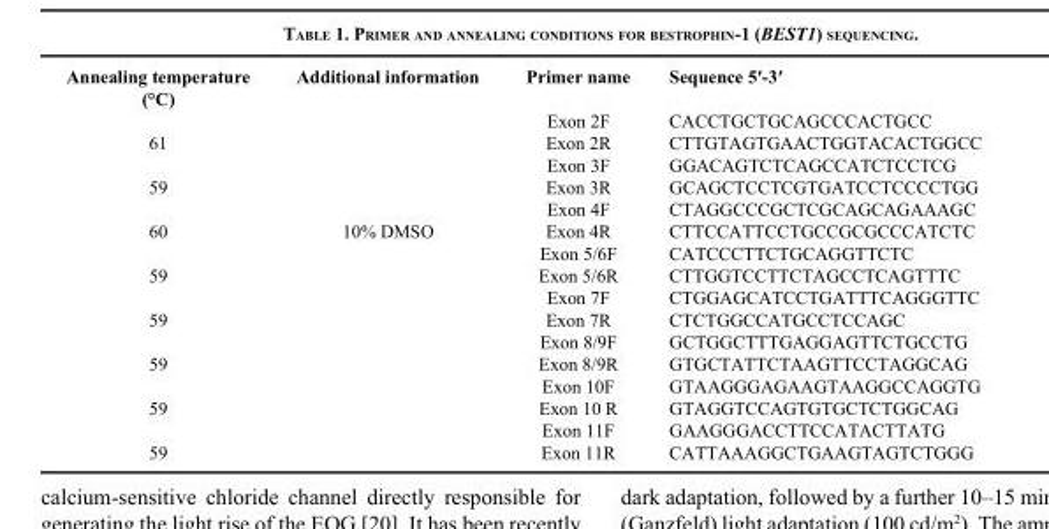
<table><thead><tr><td>Annealing temperature (°C)</td><td>Additional information</td><td>Primer name</td><td>Sequence 5′-3′</td></tr></thead><tbody><tr><td></td><td></td><td>Exon 2F</td><td>CACCTGCTGCAGCCCACTGCC</td></tr><tr><td rowspan="2">61</td><td></td><td>Exon 2R</td><td>CTTGTAGTGAACTGGTACACTGGCC</td></tr><tr><td></td><td>Exon 3F</td><td>GGACAGTCTCAGCCATCTCCTCG</td></tr><tr><td rowspan="2">59</td><td></td><td>Exon 3R</td><td>GCAGCTCCTCGTGATCCTCCCCTGG</td></tr><tr><td></td><td>Exon 4F</td><td>CTAGGCCCGCTCGCAGCAGAAAGC</td></tr><tr><td rowspan="2">60</td><td>10% DMSO</td><td>Exon 4R</td><td>CTTCCATTCCTGCCGCGCCCATCTC</td></tr><tr><td></td><td>Exon 5/6F</td><td>CATCCCTTCTGCAGGTTCTC</td></tr><tr><td rowspan="2">59</td><td></td><td>Exon 5/6R</td><td>CTTGGTCCTTCTAGCCTCAGTTTC</td></tr><tr><td></td><td>Exon 7F</td><td>CTGGAGCATCCTGATTTCAGGGTTC</td></tr><tr><td rowspan="2">59</td><td></td><td>Exon 7R</td><td>CTCTGGCCATGCCTCCAGC</td></tr><tr><td></td><td>Exon 8/9F</td><td>GCTGGCTTTGAGGAGTTCTGCCTG</td></tr><tr><td rowspan="2">59</td><td></td><td>Exon 8/9R</td><td>GTGCTATTCTAAGTTCCTAGGCAG</td></tr><tr><td></td><td>Exon 10F</td><td>GTAAGGGAGAAGTAAGGCCAGGTG</td></tr><tr><td rowspan="2">59</td><td></td><td>Exon 10 R</td><td>GTAGGTCCAGTGTGCTCTGGCAG</td></tr><tr><td></td><td>Exon 11F</td><td>GAAGGGACCTTCCATACTTATG</td></tr><tr><td>59</td><td></td><td>Exon 11R</td><td>CATTAAAGGCTGAAGTAGTCTGGG</td></tr></tbody></table>